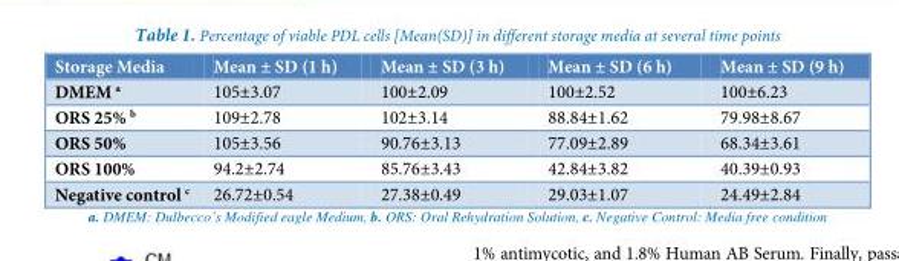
<table><thead><tr><td>Storage Media</td><td>Mean ± SD (1 h)</td><td>Mean ± SD (3 h)</td><td>Mean ± SD (6 h)</td><td>Mean ± SD (9 h)</td></tr></thead><tbody><tr><td>DMEM a</td><td>105±3.07</td><td>100±2.09</td><td>100±2.52</td><td>100±6.23</td></tr><tr><td>ORS 25% b</td><td>109±2.78</td><td>102±3.14</td><td>88.84±1.62</td><td>79.98±8.67</td></tr><tr><td>ORS 50%</td><td>105±3.56</td><td>90.76±3.13</td><td>77.09±2.89</td><td>68.34±3.61</td></tr><tr><td>ORS 100%</td><td>94.2±2.74</td><td>85.76±3.43</td><td>42.84±3.82</td><td>40.39±0.93</td></tr><tr><td>Negative control c</td><td>26.72±0.54</td><td>27.38±0.49</td><td>29.03±1.07</td><td>24.49±2.84</td></tr></tbody></table>